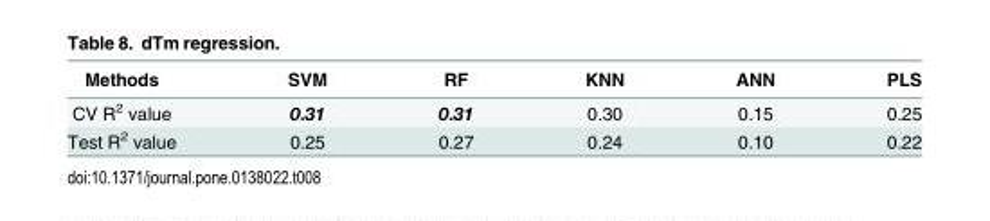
<table><thead><tr><td>Methods</td><td>SVM</td><td>RF</td><td>KNN</td><td>ANN</td><td>PLS</td></tr></thead><tbody><tr><td>CV R<sup>2</sup> value</td><td>0.31</td><td>0.31</td><td>0.30</td><td>0.15</td><td>0.25</td></tr><tr><td>Test R<sup>2</sup> value</td><td>0.25</td><td>0.27</td><td>0.24</td><td>0.10</td><td>0.22</td></tr></tbody></table>